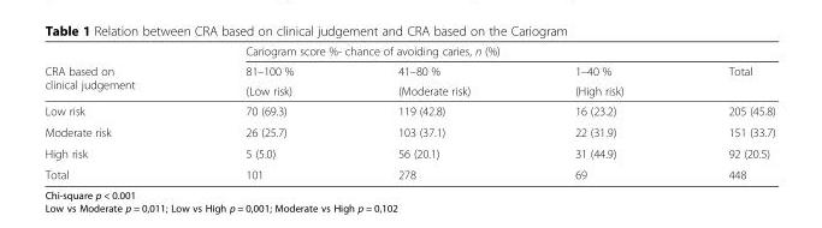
<table><thead><tr><td rowspan="3">CRA based on clinical judgement</td><td colspan="4">Cariogram score %- chance of avoiding caries, n (%)</td></tr><tr><td rowspan="2">81–100 % (Low risk)</td><td rowspan="2">41–80 % (Moderate risk)</td><td rowspan="2">1–40 % (High risk)</td><td rowspan="2">Total</td></tr><tr></tr></thead><tbody><tr><td>Low risk</td><td>70 (69.3)</td><td>119 (42.8)</td><td>16 (23.2)</td><td>205 (45.8)</td></tr><tr><td>Moderate risk</td><td>26 (25.7)</td><td>103 (37.1)</td><td>22 (31.9)</td><td>151 (33.7)</td></tr><tr><td>High risk</td><td>5 (5.0)</td><td>56 (20.1)</td><td>31 (44.9)</td><td>92 (20.5)</td></tr><tr><td>Total</td><td>101</td><td>278</td><td>69</td><td>448</td></tr></tbody></table>